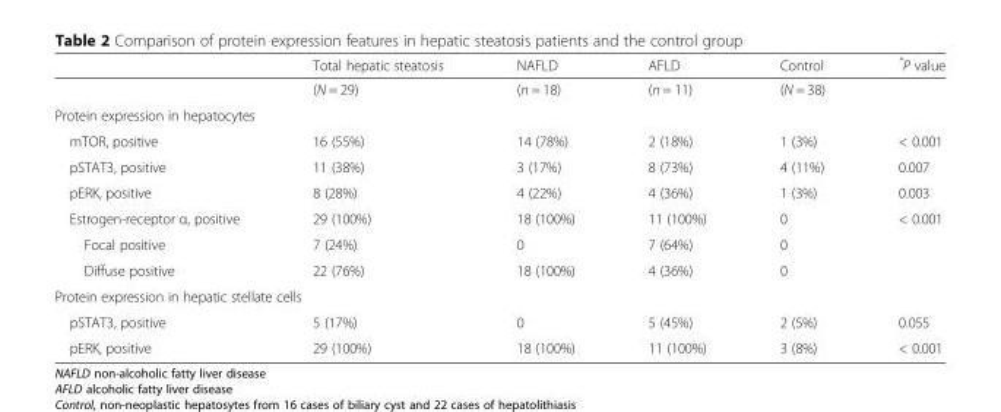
<table><thead><tr><td></td><td>Total hepatic steatosis</td><td>NAFLD</td><td>AFLD</td><td>Control</td><td>*P value</td></tr></thead><tbody><tr><td></td><td>(N = 29)</td><td>(n = 18)</td><td>(n = 11)</td><td>(N = 38)</td><td></td></tr><tr><td colspan="6">Protein expression in hepatocytes</td></tr><tr><td>mTOR, positive</td><td>16 (55%)</td><td>14 (78%)</td><td>2 (18%)</td><td>1 (3%)</td><td>&lt; 0.001</td></tr><tr><td>pSTAT3, positive</td><td>11 (38%)</td><td>3 (17%)</td><td>8 (73%)</td><td>4 (11%)</td><td>0.007</td></tr><tr><td>pERK, positive</td><td>8 (28%)</td><td>4 (22%)</td><td>4 (36%)</td><td>1 (3%)</td><td>0.003</td></tr><tr><td>Estrogen-receptor α, positive</td><td>29 (100%)</td><td>18 (100%)</td><td>11 (100%)</td><td>0</td><td>&lt; 0.001</td></tr><tr><td>Focal positive</td><td>7 (24%)</td><td>0</td><td>7 (64%)</td><td>0</td><td></td></tr><tr><td>Diffuse positive</td><td>22 (76%)</td><td>18 (100%)</td><td>4 (36%)</td><td>0</td><td></td></tr><tr><td colspan="6">Protein expression in hepatic stellate cells</td></tr><tr><td>pSTAT3, positive</td><td>5 (17%)</td><td>0</td><td>5 (45%)</td><td>2 (5%)</td><td>0.055</td></tr><tr><td>pERK, positive</td><td>29 (100%)</td><td>18 (100%)</td><td>11 (100%)</td><td>3 (8%)</td><td>&lt; 0.001</td></tr></tbody></table>